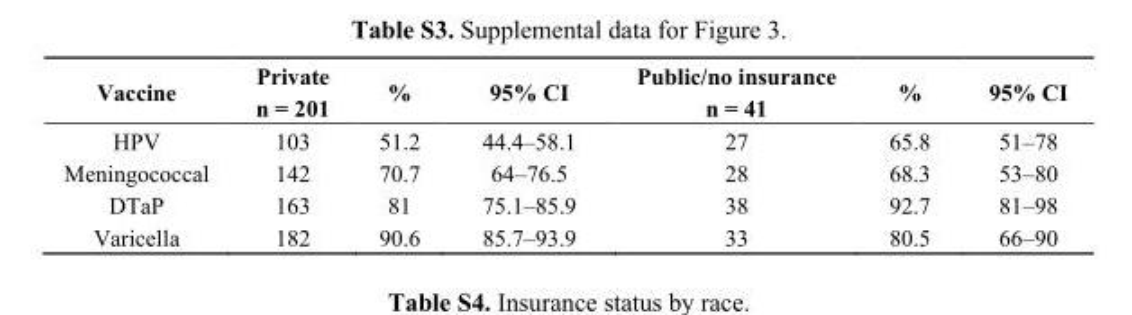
<table><thead><tr><td>Vaccine</td><td>Private n = 201</td><td>%</td><td>95% CI</td><td>Public/no insurance n = 41</td><td>%</td><td>95% CI</td></tr></thead><tbody><tr><td>HPV</td><td>103</td><td>51.2</td><td>44.4–58.1</td><td>27</td><td>65.8</td><td>51–78</td></tr><tr><td>Meningococcal</td><td>142</td><td>70.7</td><td>64–76.5</td><td>28</td><td>68.3</td><td>53–80</td></tr><tr><td>DTaP</td><td>163</td><td>81</td><td>75.1–85.9</td><td>38</td><td>92.7</td><td>81–98</td></tr><tr><td>Varicella</td><td>182</td><td>90.6</td><td>85.7–93.9</td><td>33</td><td>80.5</td><td>66–90</td></tr></tbody></table>